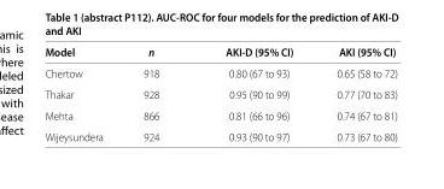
<table><thead><tr><td>Model</td><td>n</td><td>AKI-D (95% CI)</td><td>AKI (95% CI)</td></tr></thead><tbody><tr><td>Chertow</td><td>918</td><td>0.80 (67 to 93)</td><td>0.65 (58 to 72)</td></tr><tr><td>Thakar</td><td>928</td><td>0.95 (90 to 99)</td><td>0.77 (70 to 83)</td></tr><tr><td>Mehta</td><td>866</td><td>0.81 (66 to 96)</td><td>0.74 (67 to 81)</td></tr><tr><td>Wijeysundera</td><td>924</td><td>0.93 (90 to 97)</td><td>0.73 (67 to 80)</td></tr></tbody></table>